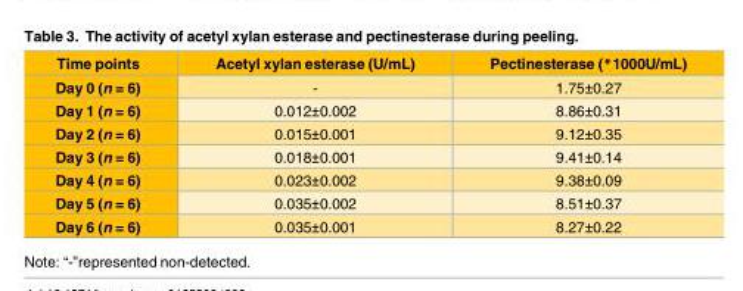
<table><thead><tr><td>Time points</td><td>Acetyl xylan esterase (U/mL)</td><td>Pectinesterase (*1000U/mL)</td></tr></thead><tbody><tr><td>Day 0 (n = 6)</td><td>-</td><td>1.75±0.27</td></tr><tr><td>Day 1 (n = 6)</td><td>0.012±0.002</td><td>8.86±0.31</td></tr><tr><td>Day 2 (n = 6)</td><td>0.015±0.001</td><td>9.12±0.35</td></tr><tr><td>Day 3 (n = 6)</td><td>0.018±0.001</td><td>9.41±0.14</td></tr><tr><td>Day 4 (n = 6)</td><td>0.023±0.002</td><td>9.38±0.09</td></tr><tr><td>Day 5 (n = 6)</td><td>0.035±0.002</td><td>8.51±0.37</td></tr><tr><td>Day 6 (n = 6)</td><td>0.035±0.001</td><td>8.27±0.22</td></tr></tbody></table>